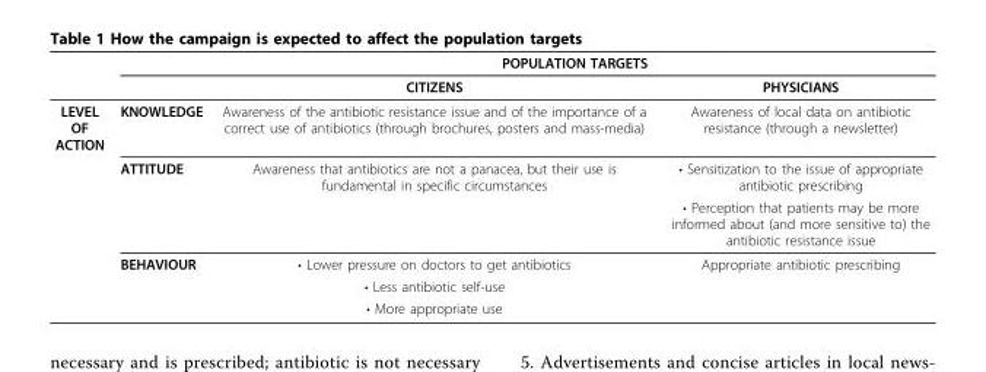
<table><thead><tr><td rowspan="2"></td><td rowspan="2"></td><td colspan="2">POPULATION TARGETS</td></tr><tr><td>CITIZENS</td><td>PHYSICIANS</td></tr></thead><tbody><tr><td rowspan="6">LEVEL OF ACTION</td><td>KNOWLEDGE</td><td>Awareness of the antibiotic resistance issue and of the importance of a correct use of antibiotics (through brochures, posters and mass-media)</td><td>Awareness of local data on antibiotic resistance (through a newsletter)</td></tr><tr><td>ATTITUDE</td><td>Awareness that antibiotics are not a panacea, but their use is fundamental in specific circumstances</td><td>• Sensitization to the issue of appropriate antibiotic prescribing</td></tr><tr><td></td><td></td><td>• Perception that patients may be more informed about (and more sensitive to) the antibiotic resistance issue</td></tr><tr><td>BEHAVIOUR</td><td>• Lower pressure on doctors to get antibiotics</td><td>Appropriate antibiotic prescribing</td></tr><tr><td></td><td>• Less antibiotic self-use</td><td></td></tr><tr><td></td><td>• More appropriate use</td><td></td></tr></tbody></table>